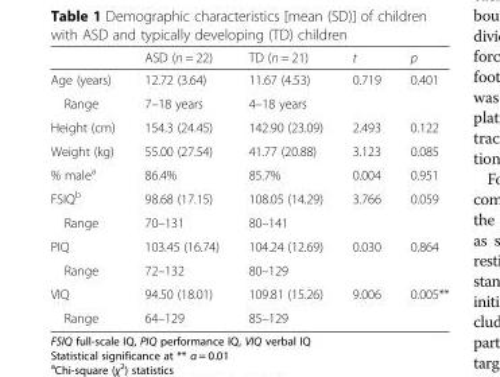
<table><thead><tr><td></td><td>ASD (n = 22)</td><td>TD (n = 21)</td><td>t</td><td>p</td></tr></thead><tbody><tr><td>Age (years)</td><td>12.72 (3.64)</td><td>11.67 (4.53)</td><td>0.719</td><td>0.401</td></tr><tr><td>Range</td><td>7–18 years</td><td>4–18 years</td><td></td><td></td></tr><tr><td>Height (cm)</td><td>154.3 (24.45)</td><td>142.90 (23.09)</td><td>2.493</td><td>0.122</td></tr><tr><td>Weight (kg)</td><td>55.00 (27.54)</td><td>41.77 (20.88)</td><td>3.123</td><td>0.085</td></tr><tr><td>% male<sup>a</sup></td><td>86.4%</td><td>85.7%</td><td>0.004</td><td>0.951</td></tr><tr><td>FSIQ<sup>b</sup></td><td>98.68 (17.15)</td><td>108.05 (14.29)</td><td>3.766</td><td>0.059</td></tr><tr><td>Range</td><td>70–131</td><td>80–141</td><td></td><td></td></tr><tr><td>PIQ</td><td>103.45 (16.74)</td><td>104.24 (12.69)</td><td>0.030</td><td>0.864</td></tr><tr><td>Range</td><td>72–132</td><td>80–129</td><td></td><td></td></tr><tr><td>VIQ</td><td>94.50 (18.01)</td><td>109.81 (15.26)</td><td>9.006</td><td>0.005**</td></tr><tr><td>Range</td><td>64–129</td><td>85–129</td><td></td><td></td></tr></tbody></table>